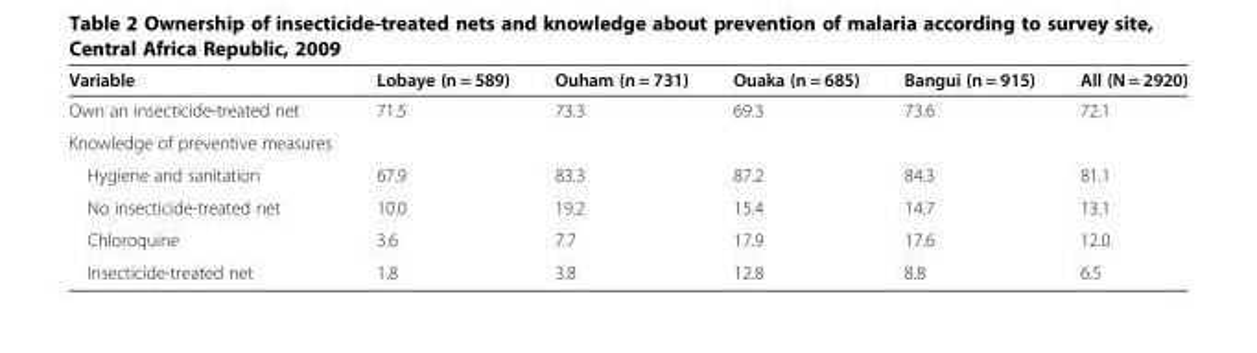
<table><thead><tr><td>Variable</td><td>Lobaye (n = 589)</td><td>Ouham (n = 731)</td><td>Ouaka (n = 685)</td><td>Bangui (n = 915)</td><td>All (N = 2920)</td></tr></thead><tbody><tr><td>Own an insecticide-treated net</td><td>71.5</td><td>73.3</td><td>69.3</td><td>73.6</td><td>72.1</td></tr><tr><td colspan="6">Knowledge of preventive measures</td></tr><tr><td>Hygiene and sanitation</td><td>67.9</td><td>83.3</td><td>87.2</td><td>84.3</td><td>81.1</td></tr><tr><td>No insecticide-treated net</td><td>10.0</td><td>19.2</td><td>15.4</td><td>14.7</td><td>13.1</td></tr><tr><td>Chloroquine</td><td>3.6</td><td>7.7</td><td>17.9</td><td>17.6</td><td>12.0</td></tr><tr><td>Insecticide-treated net</td><td>1.8</td><td>3.8</td><td>12.8</td><td>8.8</td><td>6.5</td></tr></tbody></table>